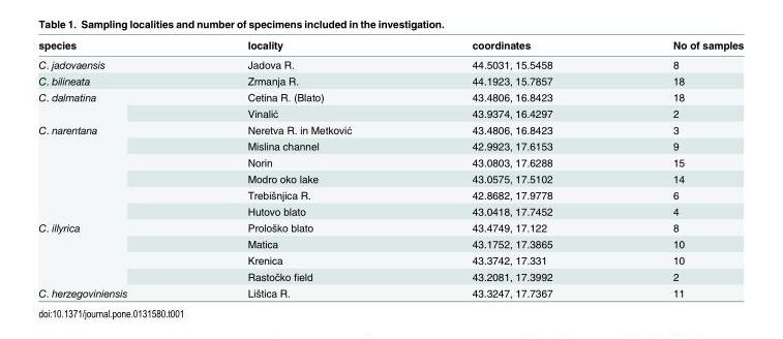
<table><thead><tr><td>species</td><td>locality</td><td>coordinates</td><td>No of samples</td></tr></thead><tbody><tr><td>C. jadovaensis</td><td>Jadova R.</td><td>44.5031, 15.5458</td><td>8</td></tr><tr><td>C. bilineata</td><td>Zrmanja R.</td><td>44.1923, 15.7857</td><td>18</td></tr><tr><td rowspan="2">C. dalmatina</td><td>Cetina R. (Blato)</td><td>43.4806, 16.8423</td><td>18</td></tr><tr><td>Vinalić</td><td>43.9374, 16.4297</td><td>2</td></tr><tr><td rowspan="6">C. narentana</td><td>Neretva R. in Metković</td><td>43.4806, 16.8423</td><td>3</td></tr><tr><td>Mislina channel</td><td>42.9923, 17.6153</td><td>9</td></tr><tr><td>Norin</td><td>43.0803, 17.6288</td><td>15</td></tr><tr><td>Modro oko lake</td><td>43.0575, 17.5102</td><td>14</td></tr><tr><td>Trebišnjica R.</td><td>42.8682, 17.9778</td><td>6</td></tr><tr><td>Hutovo blato</td><td>43.0418, 17.7452</td><td>4</td></tr><tr><td rowspan="4">C. illyrica</td><td>Prološko blato</td><td>43.4749, 17.122</td><td>8</td></tr><tr><td>Matica</td><td>43.1752, 17.3865</td><td>10</td></tr><tr><td>Krenica</td><td>43.3742, 17.331</td><td>10</td></tr><tr><td>Rastočko field</td><td>43.2081, 17.3992</td><td>2</td></tr><tr><td>C. herzegoviniensis</td><td>Lištica R.</td><td>43.3247, 17.7367</td><td>11</td></tr></tbody></table>